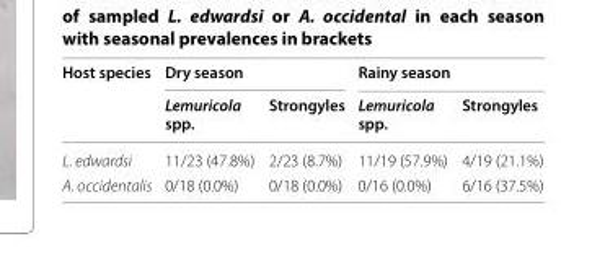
<table><thead><tr><td rowspan="2">Host species</td><td colspan="2">Dry season</td><td colspan="2">Rainy season</td></tr><tr><td>Lemuricola spp.</td><td>Strongyles</td><td>Lemuricola spp.</td><td>Strongyles</td></tr></thead><tbody><tr><td>L. edwardsi</td><td>11/23 (47.8%)</td><td>2/23 (8.7%)</td><td>11/19 (57.9%)</td><td>4/19 (21.1%)</td></tr><tr><td>A. occidentalis</td><td>0/18 (0.0%)</td><td>0/18 (0.0%)</td><td>0/16 (0.0%)</td><td>6/16 (37.5%)</td></tr></tbody></table>